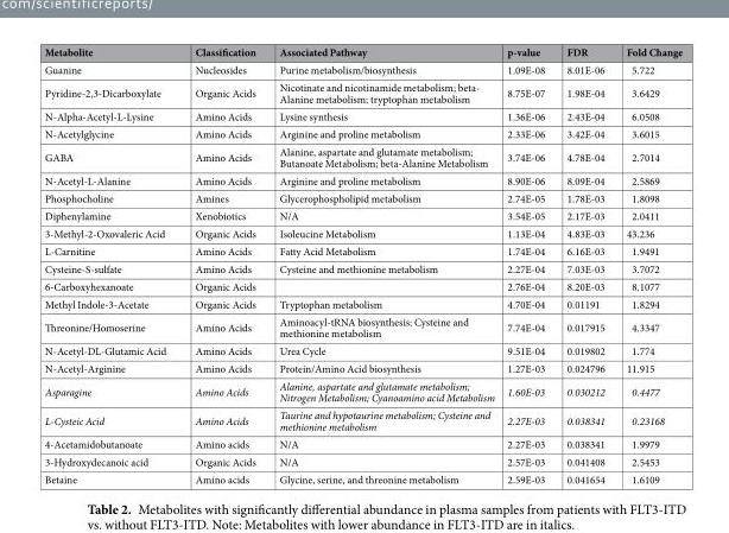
<table><thead><tr><td>Metabolite</td><td>Classification</td><td>Associated Pathway</td><td>p-value</td><td>FDR</td><td>Fold Change</td></tr></thead><tbody><tr><td>Guanine</td><td>Nucleosides</td><td>Purine metabolism/biosynthesis</td><td>1.09E-08</td><td>8.01E-06</td><td>5.722</td></tr><tr><td>Pyridine-2,3-Dicarboxylate</td><td>Organic Acids</td><td>Nicotinate and nicotinamide metabolism; beta- Alanine metabolism; tryptophan metabolism</td><td>8.75E-07</td><td>1.98E-04</td><td>3.6429</td></tr><tr><td>N-Alpha-Acetyl-L-Lysine</td><td>Amino Acids</td><td>Lysine synthesis</td><td>1.36E-06</td><td>2.43E-04</td><td>6.0508</td></tr><tr><td>N-Acetylglycine</td><td>Amino Acids</td><td>Arginine and proline metabolism</td><td>2.33E-06</td><td>3.42E-04</td><td>3.6015</td></tr><tr><td>GABA</td><td>Amino Acids</td><td>Alanine, aspartate and glutamate metabolism; Butanoate Metabolism; beta-Alanine Metabolism</td><td>3.74E-06</td><td>4.78E-04</td><td>2.7014</td></tr><tr><td>N-Acetyl-L-Alanine</td><td>Amino Acids</td><td>Arginine and proline metabolism</td><td>8.90E-06</td><td>8.09E-04</td><td>2.5869</td></tr><tr><td>Phosphocholine</td><td>Amines</td><td>Glycerophospholipid metabolism</td><td>2.74E-05</td><td>1.78E-03</td><td>1.8098</td></tr><tr><td>Diphenylamine</td><td>Xenobiotics</td><td>N/A</td><td>3.54E-05</td><td>2.17E-03</td><td>2.0411</td></tr><tr><td>3-Methyl-2-Oxovaleric Acid</td><td>Organic Acids</td><td>Isoleucine Metabolism</td><td>1.13E-04</td><td>4.83E-03</td><td>43.236</td></tr><tr><td>L-Carnitine</td><td>Amino Acids</td><td>Fatty Acid Metabolism</td><td>1.74E-04</td><td>6.16E-03</td><td>1.9491</td></tr><tr><td>Cysteine-S-sulfate</td><td>Amino Acids</td><td>Cysteine and methionine metabolism</td><td>2.27E-04</td><td>7.03E-03</td><td>3.7072</td></tr><tr><td>6-Carboxyhexanoate</td><td>Organic Acids</td><td></td><td>2.76E-04</td><td>8.20E-03</td><td>8.1077</td></tr><tr><td>Methyl Indole-3-Acetate</td><td>Organic Acids</td><td>Tryptophan metabolism</td><td>4.70E-04</td><td>0.01191</td><td>1.8294</td></tr><tr><td>Threonine/Homoserine</td><td>Amino Acids</td><td>Aminoacyl-tRNA biosynthesis; Cysteine and methionine metabolism</td><td>7.74E-04</td><td>0.017915</td><td>4.3347</td></tr><tr><td>N-Acetyl-DL-Glutamic Acid</td><td>Amino Acids</td><td>Urea Cycle</td><td>9.51E-04</td><td>0.019802</td><td>1.774</td></tr><tr><td>N-Acetyl-Arginine</td><td>Amino Acids</td><td>Protein/Amino Acid biosynthesis</td><td>1.27E-03</td><td>0.024796</td><td>11.915</td></tr><tr><td>Asparagine</td><td>Amino Acids</td><td>Alanine, aspartate and glutamate metabolism; Nitrogen Metabolism; Cyanoamino acid Metabolism</td><td>1.60E-03</td><td>0.030212</td><td>0.4477</td></tr><tr><td>L-Cysteic Acid</td><td>Amino Acids</td><td>Taurine and hypotaurine metabolism; Cysteine and methionine metabolism</td><td>2.27E-03</td><td>0.038341</td><td>0.23168</td></tr><tr><td>4-Acetamidobutanoate</td><td>Amino acids</td><td>N/A</td><td>2.27E-03</td><td>0.038341</td><td>1.9979</td></tr><tr><td>3-Hydroxydecanoic acid</td><td>Organic Acids</td><td>N/A</td><td>2.57E-03</td><td>0.041408</td><td>2.5453</td></tr><tr><td>Betaine</td><td>Amino acids</td><td>Glycine, serine, and threonine metabolism</td><td>2.59E-03</td><td>0.041654</td><td>1.6109</td></tr></tbody></table>